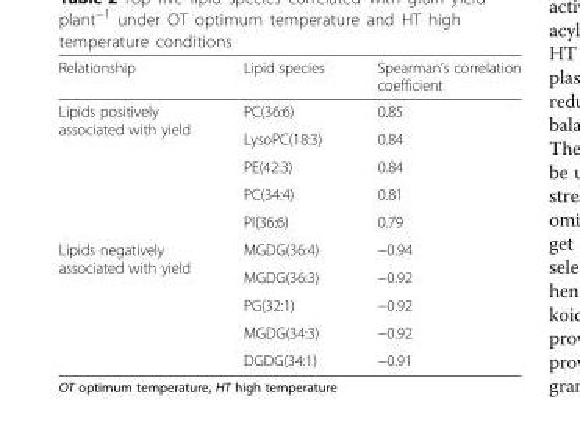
<table><thead><tr><td>Relationship</td><td>Lipid species</td><td>Spearman’s correlation coefficient</td></tr></thead><tbody><tr><td rowspan="5">Lipids positively associated with yield</td><td>PC(36:6)</td><td>0.85</td></tr><tr><td>LysoPC(18:3)</td><td>0.84</td></tr><tr><td>PE(42:3)</td><td>0.84</td></tr><tr><td>PC(34:4)</td><td>0.81</td></tr><tr><td>PI(36:6)</td><td>0.79</td></tr><tr><td rowspan="5">Lipids negatively associated with yield</td><td>MGDG(36:4)</td><td>−0.94</td></tr><tr><td>MGDG(36:3)</td><td>−0.92</td></tr><tr><td>PG(32:1)</td><td>−0.92</td></tr><tr><td>MGDG(34:3)</td><td>−0.92</td></tr><tr><td>DGDG(34:1)</td><td>−0.91</td></tr></tbody></table>